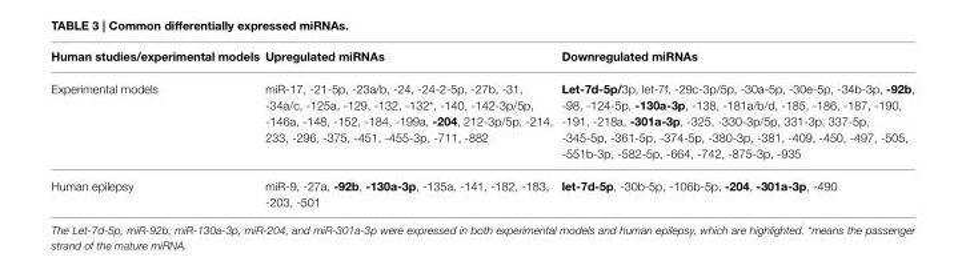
<table><thead><tr><td>Human studies/experimental models</td><td>Upregulated miRNAs</td><td>Downregulated miRNAs</td></tr></thead><tbody><tr><td>Experimental models</td><td>miR-17, -21-5p, -23a/b, -24, -24-2-5p, -27b, -31, -34a/c, -125a, -129, -132, -132*, -140, -142-3p/5p, -146a, -148, -152, -184, -199a, -204, 212-3p/5p, -214, 233, -296, -375, -451, -455-3p, -711, -882</td><td>Let-7d-5p/3p, let-7f, -29c-3p/5p, -30a-5p, -30e-5p, -34b-3p, -92b, -98, -124-5p, -130a-3p, -138, -181a/b/d, -185, -186, -187, -190, -191, -218a, -301a-3p, -325, -330-3p/5p, 331-3p, 337-5p, -345-5p, -361-5p, -374-5p, -380-3p, -381, -409, -450, -497, -505, -551b-3p, -582-5p, -664, -742, -875-3p, -935</td></tr><tr><td>Human epilepsy</td><td>miR-9, -27a, -92b, -130a-3p, -135a, -141, -182, -183, -203, -501</td><td>let-7d-5p, -30b-5p, -106b-5p, -204, -301a-3p, -490</td></tr></tbody></table>